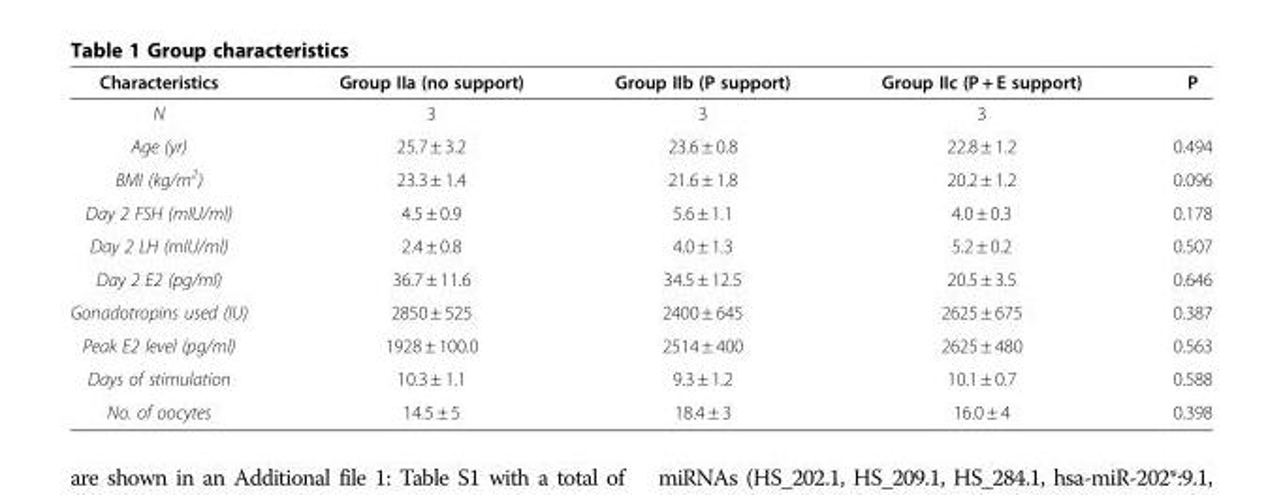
<table><thead><tr><td>Characteristics</td><td>Group IIa (no support)</td><td>Group IIb (P support)</td><td>Group IIc (P + E support)</td><td>P</td></tr></thead><tbody><tr><td>N</td><td>3</td><td>3</td><td>3</td><td></td></tr><tr><td>Age (yr)</td><td>25.7 ± 3.2</td><td>23.6 ± 0.8</td><td>22.8 ± 1.2</td><td>0.494</td></tr><tr><td>BMI (kg/m<sup>2</sup>)</td><td>23.3 ± 1.4</td><td>21.6 ± 1.8</td><td>20.2 ± 1.2</td><td>0.096</td></tr><tr><td>Day 2 FSH (mIU/ml)</td><td>4.5 ± 0.9</td><td>5.6 ± 1.1</td><td>4.0 ± 0.3</td><td>0.178</td></tr><tr><td>Day 2 LH (mIU/ml)</td><td>2.4 ± 0.8</td><td>4.0 ± 1.3</td><td>5.2 ± 0.2</td><td>0.507</td></tr><tr><td>Day 2 E2 (pg/ml)</td><td>36.7 ± 11.6</td><td>34.5 ± 12.5</td><td>20.5 ± 3.5</td><td>0.646</td></tr><tr><td>Gonadotropins used (IU)</td><td>2850 ± 525</td><td>2400 ± 645</td><td>2625 ± 675</td><td>0.387</td></tr><tr><td>Peak E2 level (pg/ml)</td><td>1928 ± 100.0</td><td>2514 ± 400</td><td>2625 ± 480</td><td>0.563</td></tr><tr><td>Days of stimulation</td><td>10.3 ± 1.1</td><td>9.3 ± 1.2</td><td>10.1 ± 0.7</td><td>0.588</td></tr><tr><td>No. of oocytes</td><td>14.5 ± 5</td><td>18.4 ± 3</td><td>16.0 ± 4</td><td>0.398</td></tr></tbody></table>